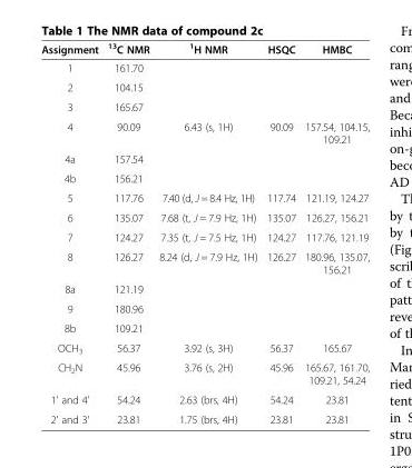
<table><thead><tr><td>Assignment</td><td><sup>13</sup>C NMR</td><td><sup>1</sup>H NMR</td><td>HSQC</td><td>HMBC</td></tr></thead><tbody><tr><td>1</td><td>161.70</td><td></td><td></td><td></td></tr><tr><td>2</td><td>104.15</td><td></td><td></td><td></td></tr><tr><td>3</td><td>165.67</td><td></td><td></td><td></td></tr><tr><td>4</td><td>90.09</td><td>6.43 (s, 1H)</td><td>90.09</td><td>157.54, 104.15, 109.21</td></tr><tr><td>4a</td><td>157.54</td><td></td><td></td><td></td></tr><tr><td>4b</td><td>156.21</td><td></td><td></td><td></td></tr><tr><td>5</td><td>117.76</td><td>7.40 (d, J = 8.4 Hz, 1H)</td><td>117.74</td><td>121.19, 124.27</td></tr><tr><td>6</td><td>135.07</td><td>7.68 (t, J = 7.9 Hz, 1H)</td><td>135.07</td><td>126.27, 156.21</td></tr><tr><td>7</td><td>124.27</td><td>7.35 (t, J = 7.5 Hz, 1H)</td><td>124.27</td><td>117.76, 121.19</td></tr><tr><td>8</td><td>126.27</td><td>8.24 (d, J = 7.9 Hz, 1H)</td><td>126.27</td><td>180.96, 135.07, 156.21</td></tr><tr><td>8a</td><td>121.19</td><td></td><td></td><td></td></tr><tr><td>9</td><td>180.96</td><td></td><td></td><td></td></tr><tr><td>8b</td><td>109.21</td><td></td><td></td><td></td></tr><tr><td>OCH<sub>3</sub></td><td>56.37</td><td>3.92 (s, 3H)</td><td>56.37</td><td>165.67</td></tr><tr><td>CH<sub>2</sub>N</td><td>45.96</td><td>3.76 (s, 2H)</td><td>45.96</td><td>165.67, 161.70, 109.21, 54.24</td></tr><tr><td>1&#x27; and 4&#x27;</td><td>54.24</td><td>2.63 (brs, 4H)</td><td>54.24</td><td>23.81</td></tr><tr><td>2&#x27; and 3&#x27;</td><td>23.81</td><td>1.75 (brs, 4H)</td><td>23.81</td><td>23.81</td></tr></tbody></table>